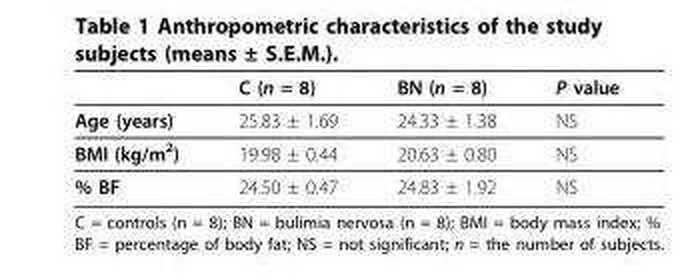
<table><thead><tr><td></td><td>C (n = 8)</td><td>BN (n = 8)</td><td>P value</td></tr></thead><tbody><tr><td>Age (years)</td><td>25.83 ± 1.69</td><td>24.33 ± 1.38</td><td>NS</td></tr><tr><td>BMI (kg/m<sup>2</sup>)</td><td>19.98 ± 0.44</td><td>20.63 ± 0.80</td><td>NS</td></tr><tr><td>% BF</td><td>24.50 ± 0.47</td><td>24.83 ± 1.92</td><td>NS</td></tr></tbody></table>